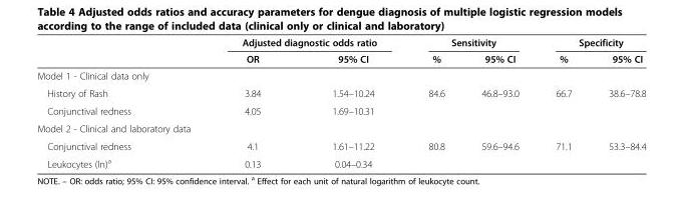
<table><thead><tr><td rowspan="2"></td><td colspan="2">Adjusted diagnostic odds ratio</td><td colspan="2">Sensitivity</td><td colspan="2">Specificity</td></tr><tr><td>OR</td><td>95% CI</td><td>%</td><td>95% CI</td><td>%</td><td>95% CI</td></tr></thead><tbody><tr><td colspan="7">Model 1 - Clinical data only</td></tr><tr><td>History of Rash</td><td>3.84</td><td>1.54–10.24</td><td>84.6</td><td>46.8–93.0</td><td>66.7</td><td>38.6–78.8</td></tr><tr><td>Conjunctival redness</td><td>4.05</td><td>1.69–10.31</td><td></td><td></td><td></td><td></td></tr><tr><td colspan="7">Model 2 - Clinical and laboratory data</td></tr><tr><td>Conjunctival redness</td><td>4.1</td><td>1.61–11.22</td><td>80.8</td><td>59.6–94.6</td><td>71.1</td><td>53.3–84.4</td></tr><tr><td>Leukocytes (ln)<sup>a</sup></td><td>0.13</td><td>0.04–0.34</td><td></td><td></td><td></td><td></td></tr></tbody></table>